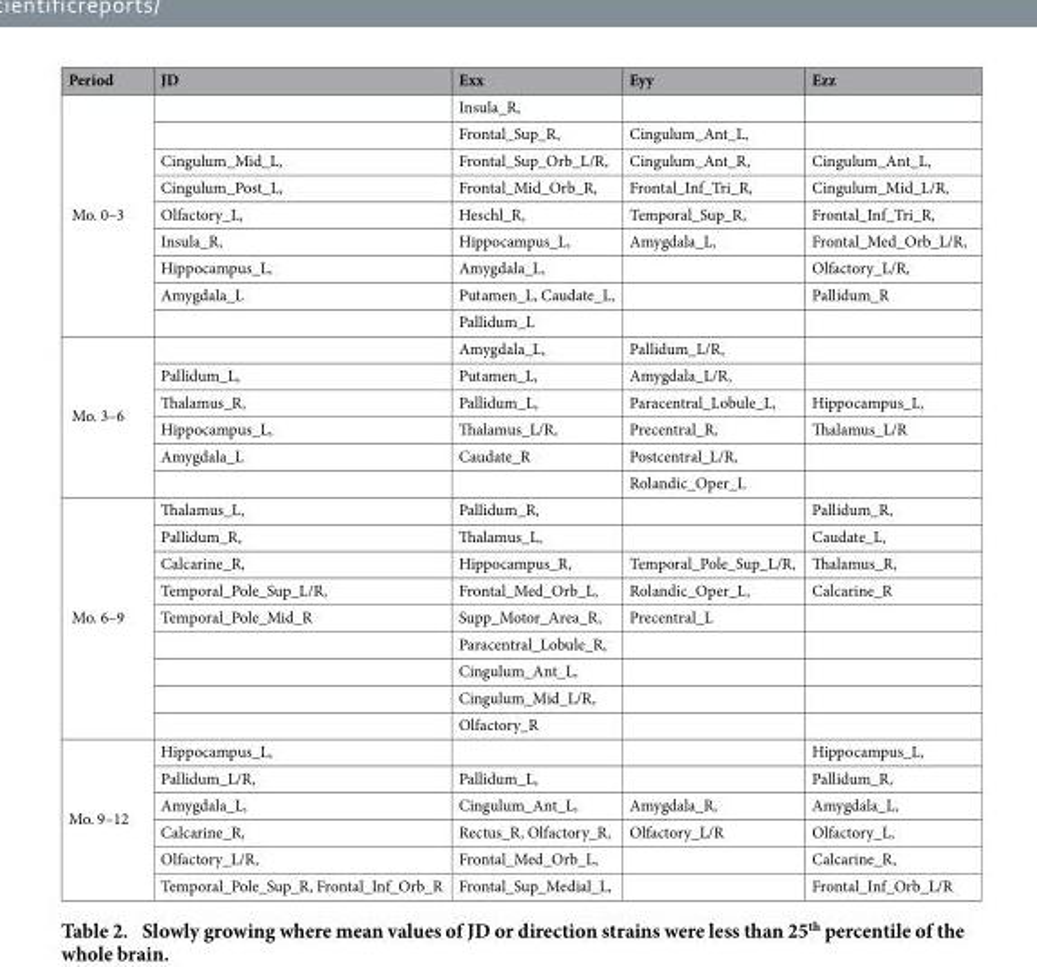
<table><thead><tr><td>Period</td><td>JD</td><td>Exx</td><td>Eyy</td><td>Ezz</td></tr></thead><tbody><tr><td rowspan="9">Mo. 0–3</td><td></td><td>Insula_R,</td><td></td><td></td></tr><tr><td></td><td>Frontal_Sup_R,</td><td>Cingulum_Ant_L,</td><td></td></tr><tr><td>Cingulum_Mid_L,</td><td>Frontal_Sup_Orb_L/R,</td><td>Cingulum_Ant_R,</td><td>Cingulum_Ant_L,</td></tr><tr><td>Cingulum_Post_L,</td><td>Frontal_Mid_Orb_R,</td><td>Frontal_Inf_Tri_R,</td><td>Cingulum_Mid_L/R,</td></tr><tr><td>Olfactory_L,</td><td>Heschl_R,</td><td>Temporal_Sup_R,</td><td>Frontal_Inf_Tri_R,</td></tr><tr><td>Insula_R,</td><td>Hippocampus_L,</td><td>Amygdala_L,</td><td>Frontal_Med_Orb_L/R,</td></tr><tr><td>Hippocampus_L,</td><td>Amygdala_L,</td><td></td><td>Olfactory_L/R,</td></tr><tr><td>Amygdala_L</td><td>Putamen_L, Caudate_L,</td><td></td><td>Pallidum_R</td></tr><tr><td></td><td>Pallidum_L</td><td></td><td></td></tr><tr><td rowspan="6">Mo. 3–6</td><td></td><td>Amygdala_L,</td><td>Pallidum_L/R,</td><td></td></tr><tr><td>Pallidum_L,</td><td>Putamen_L,</td><td>Amygdala_L/R,</td><td></td></tr><tr><td>Thalamus_R,</td><td>Pallidum_L,</td><td>Paracentral_Lobule_L,</td><td>Hippocampus_L,</td></tr><tr><td>Hippocampus_L,</td><td>Thalamus_L/R,</td><td>Precentral_R,</td><td>Thalamus_L/R</td></tr><tr><td>Amygdala_L</td><td>Caudate_R</td><td>Postcentral_L/R,</td><td></td></tr><tr><td></td><td></td><td>Rolandic_Oper_L</td><td></td></tr><tr><td rowspan="9">Mo. 6–9</td><td>Thalamus_L,</td><td>Pallidum_R,</td><td></td><td>Pallidum_R,</td></tr><tr><td>Pallidum_R,</td><td>Thalamus_L,</td><td></td><td>Caudate_L,</td></tr><tr><td>Calcarine_R,</td><td>Hippocampus_R,</td><td>Temporal_Pole_Sup_L/R,</td><td>Thalamus_R,</td></tr><tr><td>Temporal_Pole_Sup_L/R,</td><td>Frontal_Med_Orb_L,</td><td>Rolandic_Oper_L,</td><td>Calcarine_R</td></tr><tr><td>Temporal_Pole_Mid_R</td><td>Supp_Motor_Area_R,</td><td>Precentral_L</td><td></td></tr><tr><td></td><td>Paracentral_Lobule_R,</td><td></td><td></td></tr><tr><td></td><td>Cingulum_Ant_L,</td><td></td><td></td></tr><tr><td></td><td>Cingulum_Mid_L/R,</td><td></td><td></td></tr><tr><td></td><td>Olfactory_R</td><td></td><td></td></tr><tr><td rowspan="6">Mo. 9–12</td><td>Hippocampus_L,</td><td></td><td></td><td>Hippocampus_L,</td></tr><tr><td>Pallidum_L/R,</td><td>Pallidum_L,</td><td></td><td>Pallidum_R,</td></tr><tr><td>Amygdala_L,</td><td>Cingulum_Ant_L,</td><td>Amygdala_R,</td><td>Amygdala_L,</td></tr><tr><td>Calcarine_R,</td><td>Rectus_R, Olfactory_R,</td><td>Olfactory_L/R</td><td>Olfactory_L,</td></tr><tr><td>Olfactory_L/R,</td><td>Frontal_Med_Orb_L,</td><td></td><td>Calcarine_R,</td></tr><tr><td>Temporal_Pole_Sup_R, Frontal_Inf_Orb_R</td><td>Frontal_Sup_Medial_L,</td><td></td><td>Frontal_Inf_Orb_L/R</td></tr></tbody></table>